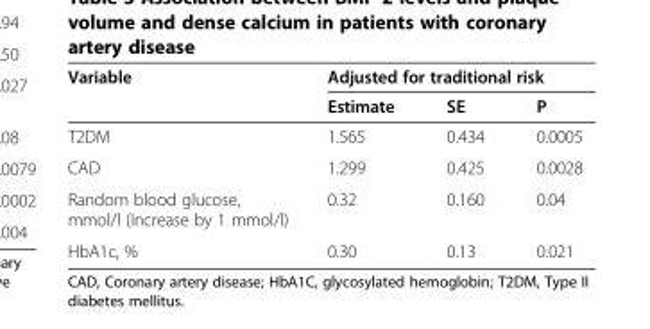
<table><thead><tr><td rowspan="2">Variable</td><td colspan="3">Adjusted for traditional risk</td></tr><tr><td>Estimate</td><td>SE</td><td>P</td></tr></thead><tbody><tr><td>T2DM</td><td>1.565</td><td>0.434</td><td>0.0005</td></tr><tr><td>CAD</td><td>1.299</td><td>0.425</td><td>0.0028</td></tr><tr><td>Random blood glucose, mmol/l (Increase by 1 mmol/l)</td><td>0.32</td><td>0.160</td><td>0.04</td></tr><tr><td>HbA1c, %</td><td>0.30</td><td>0.13</td><td>0.021</td></tr></tbody></table>